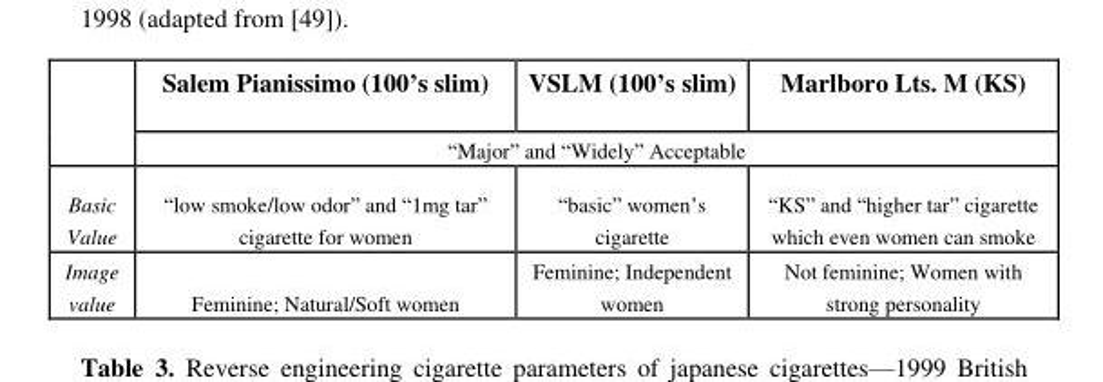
<table><thead><tr><td rowspan="2"></td><td>Salem Pianissimo (100’s slim)</td><td>VSLM (100’s slim)</td><td>Marlboro Lts. M (KS)</td></tr><tr><td colspan="3">―Major‖ and ―Widely‖ Acceptable</td></tr></thead><tbody><tr><td>Basic Value</td><td>―low smoke/low odor‖ and ―1mg tar‖ cigarette for women</td><td>―basic‖ women‘s cigarette</td><td>―KS‖ and ―higher tar‖ cigarette which even women can smoke</td></tr><tr><td>Image value</td><td>Feminine; Natural/Soft women</td><td>Feminine; Independent women</td><td>Not feminine; Women with strong personality</td></tr></tbody></table>